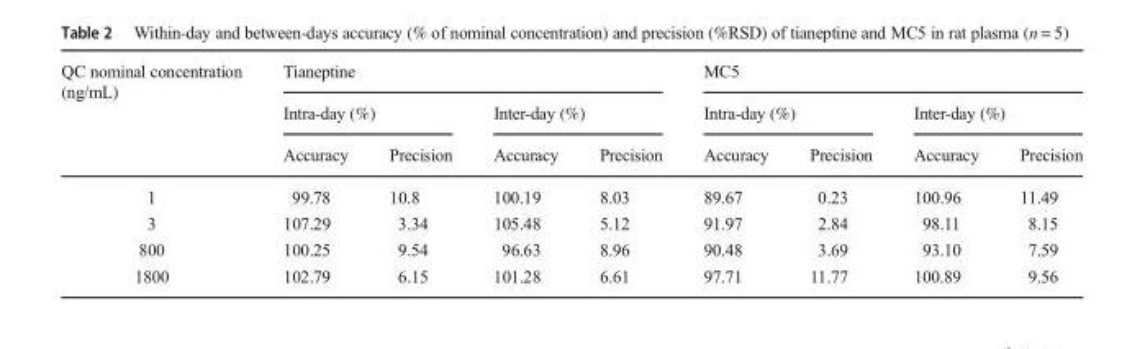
<table><thead><tr><td rowspan="3">QC nominal concentration (ng/mL)</td><td colspan="4">Tianeptine</td><td colspan="4">MC5</td></tr><tr><td colspan="2">Intra-day (%)</td><td colspan="2">Inter-day (%)</td><td colspan="2">Intra-day (%)</td><td colspan="2">Inter-day (%)</td></tr><tr><td>Accuracy</td><td>Precision</td><td>Accuracy</td><td>Precision</td><td>Accuracy</td><td>Precision</td><td>Accuracy</td><td>Precision</td></tr></thead><tbody><tr><td>1</td><td>99.78</td><td>10.8</td><td>100.19</td><td>8.03</td><td>89.67</td><td>0.23</td><td>100.96</td><td>11.49</td></tr><tr><td>3</td><td>107.29</td><td>3.34</td><td>105.48</td><td>5.12</td><td>91.97</td><td>2.84</td><td>98.11</td><td>8.15</td></tr><tr><td>800</td><td>100.25</td><td>9.54</td><td>96.63</td><td>8.96</td><td>90.48</td><td>3.69</td><td>93.10</td><td>7.59</td></tr><tr><td>1800</td><td>102.79</td><td>6.15</td><td>101.28</td><td>6.61</td><td>97.71</td><td>11.77</td><td>100.89</td><td>9.56</td></tr></tbody></table>